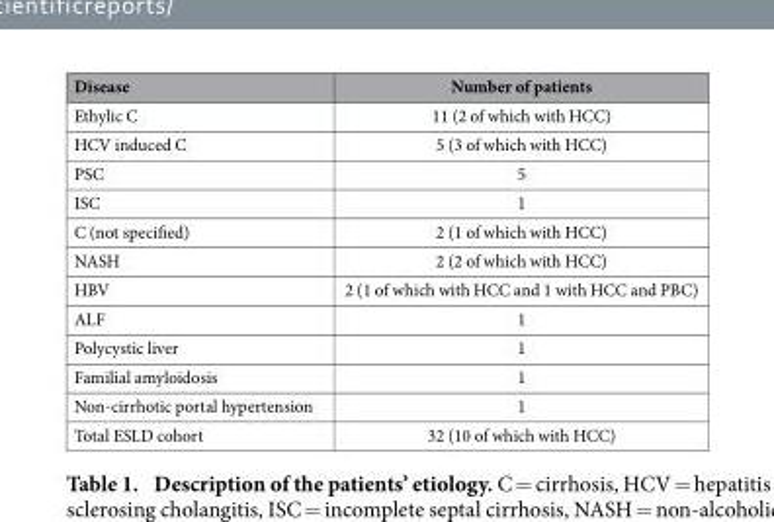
<table><thead><tr><td>Disease</td><td>Number of patients</td></tr></thead><tbody><tr><td>Ethylic C</td><td>11 (2 of which with HCC)</td></tr><tr><td>HCV induced C</td><td>5 (3 of which with HCC)</td></tr><tr><td>PSC</td><td>5</td></tr><tr><td>ISC</td><td>1</td></tr><tr><td>C (not specified)</td><td>2 (1 of which with HCC)</td></tr><tr><td>NASH</td><td>2 (2 of which with HCC)</td></tr><tr><td>HBV</td><td>2 (1 of which with HCC and 1 with HCC and PBC)</td></tr><tr><td>ALF</td><td>1</td></tr><tr><td>Polycystic liver</td><td>1</td></tr><tr><td>Familial amyloidosis</td><td>1</td></tr><tr><td>Non-cirrhotic portal hypertension</td><td>1</td></tr><tr><td>Total ESLD cohort</td><td>32 (10 of which with HCC)</td></tr></tbody></table>